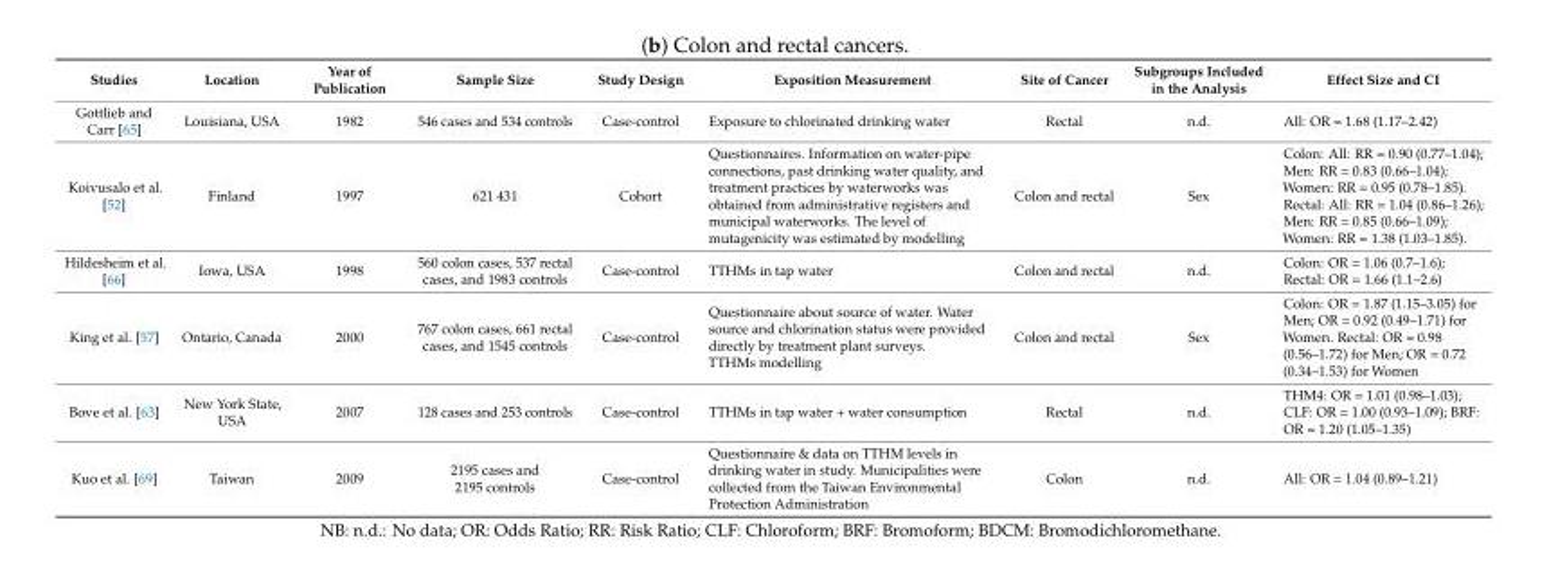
<table><thead><tr><td>Studies</td><td>Location</td><td>Year of Publication</td><td>Sample Size</td><td>Study Design</td><td>Exposition Measurement</td><td>Site of Cancer</td><td>Subgroups Included in the Analysis</td><td>Effect Size and CI</td></tr></thead><tbody><tr><td>Gottlieb and Carr [65]</td><td>Louisiana, USA</td><td>1982</td><td>546 cases and 534 controls</td><td>Case-control</td><td>Exposure to chlorinated drinking water</td><td>Rectal</td><td>n.d.</td><td>All: OR = 1.68 (1.17–2.42)</td></tr><tr><td>Koivusalo et al. [52]</td><td>Finland</td><td>1997</td><td>621 431</td><td>Cohort</td><td>Questionnaires. Information on water-pipe connections, past drinking water quality, and treatment practices by waterworks was obtained from administrative registers and municipal waterworks. The level of mutagenicity was estimated by modelling</td><td>Colon and rectal</td><td>Sex</td><td>Colon: All: RR = 0.90 (0.77–1.04); Men: RR = 0.83 (0.66–1.04); Women: RR = 0.95 (0.78–1.85). Rectal: All: RR = 1.04 (0.86–1.26); Men: RR = 0.85 (0.66–1.09); Women: RR = 1.38 (1.03–1.85).</td></tr><tr><td>Hildesheim et al. [66]</td><td>Iowa, USA</td><td>1998</td><td>560 colon cases, 537 rectal cases, and 1983 controls</td><td>Case-control</td><td>TTHMs in tap water</td><td>Colon and rectal</td><td>n.d.</td><td>Colon: OR = 1.06 (0.7–1.6); Rectal: OR = 1.66 (1.1–2.6)</td></tr><tr><td>King et al. [57]</td><td>Ontario, Canada</td><td>2000</td><td>767 colon cases, 661 rectal cases, and 1545 controls</td><td>Case-control</td><td>Questionnaire about source of water. Water source and chlorination status were provided directly by treatment plant surveys. TTHMs modelling</td><td>Colon and rectal</td><td>Sex</td><td>Colon: OR = 1.87 (1.15–3.05) for Men; OR = 0.92 (0.49–1.71) for Women. Rectal: OR = 0.98 (0.56–1.72) for Men; OR = 0.72 (0.34–1.53) for Women</td></tr><tr><td>Bove et al. [63]</td><td>New York State, USA</td><td>2007</td><td>128 cases and 253 controls</td><td>Case-control</td><td>TTHMs in tap water + water consumption</td><td>Rectal</td><td>n.d.</td><td>THM4: OR = 1.01 (0.98–1.03); CLF: OR = 1.00 (0.93–1.09); BRF: OR = 1.20 (1.05–1.35)</td></tr><tr><td>Kuo et al. [69]</td><td>Taiwan</td><td>2009</td><td>2195 cases and 2195 controls</td><td>Case-control</td><td>Questionnaire &amp; data on TTHM levels in drinking water in study. Municipalities were collected from the Taiwan Environmental Protection Administration</td><td>Colon</td><td>n.d.</td><td>All: OR = 1.04 (0.89–1.21)</td></tr></tbody></table>